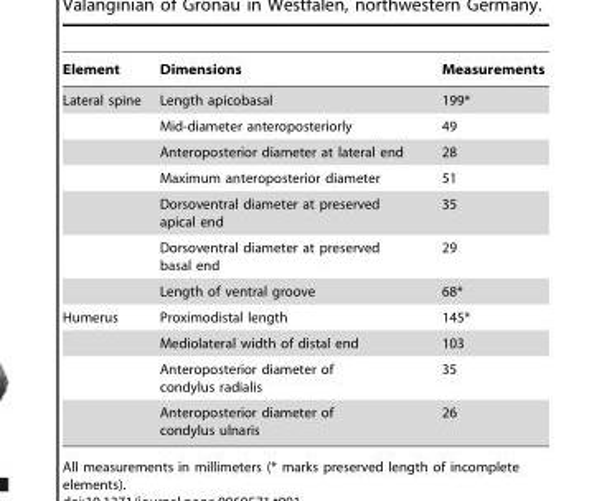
<table><thead><tr><td>Element</td><td>Dimensions</td><td>Measurements</td></tr></thead><tbody><tr><td rowspan="7">Lateral spine</td><td>Length apicobasal</td><td>199*</td></tr><tr><td>Mid-diameter anteroposteriorly</td><td>49</td></tr><tr><td>Anteroposterior diameter at lateral end</td><td>28</td></tr><tr><td>Maximum anteroposterior diameter</td><td>51</td></tr><tr><td>Dorsoventral diameter at preserved apical end</td><td>35</td></tr><tr><td>Dorsoventral diameter at preserved basal end</td><td>29</td></tr><tr><td>Length of ventral groove</td><td>68*</td></tr><tr><td rowspan="4">Humerus</td><td>Proximodistal length</td><td>145*</td></tr><tr><td>Mediolateral width of distal end</td><td>103</td></tr><tr><td>Anteroposterior diameter of condylus radialis</td><td>35</td></tr><tr><td>Anteroposterior diameter of condylus ulnaris</td><td>26</td></tr></tbody></table>